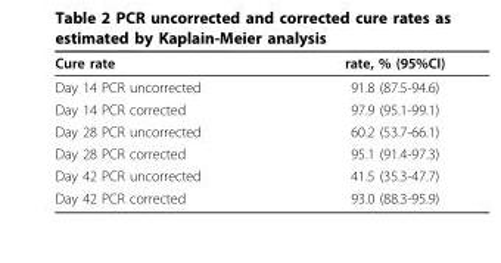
<table><thead><tr><td>Cure rate</td><td>rate, % (95%CI)</td></tr></thead><tbody><tr><td>Day 14 PCR uncorrected</td><td>91.8 (87.5-94.6)</td></tr><tr><td>Day 14 PCR corrected</td><td>97.9 (95.1-99.1)</td></tr><tr><td>Day 28 PCR uncorrected</td><td>60.2 (53.7-66.1)</td></tr><tr><td>Day 28 PCR corrected</td><td>95.1 (91.4-97.3)</td></tr><tr><td>Day 42 PCR uncorrected</td><td>41.5 (35.3-47.7)</td></tr><tr><td>Day 42 PCR corrected</td><td>93.0 (88.3-95.9)</td></tr></tbody></table>